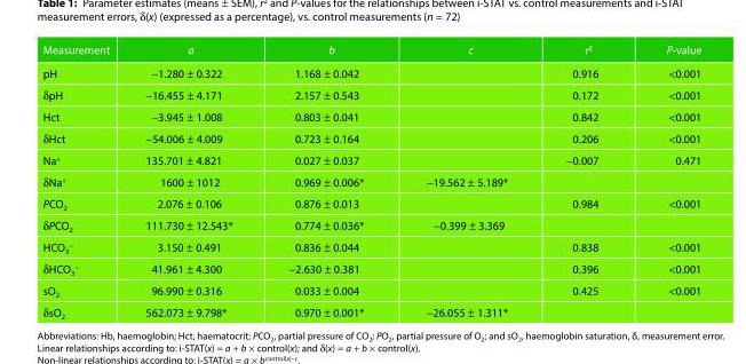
<table><thead><tr><td>Measurement</td><td>a</td><td>b</td><td>c</td><td>r<sup>2</sup></td><td>P-value</td></tr></thead><tbody><tr><td>pH</td><td>−1.280 ± 0.322</td><td>1.168 ± 0.042</td><td></td><td>0.916</td><td>&lt;0.001</td></tr><tr><td>δpH</td><td>−16.455 ± 4.171</td><td>2.157 ± 0.543</td><td></td><td>0.172</td><td>&lt;0.001</td></tr><tr><td>Hct</td><td>−3.945 ± 1.008</td><td>0.803 ± 0.041</td><td></td><td>0.842</td><td>&lt;0.001</td></tr><tr><td>δHct</td><td>−54.006 ± 4.009</td><td>0.723 ± 0.164</td><td></td><td>0.206</td><td>&lt;0.001</td></tr><tr><td>Na<sup>+</sup></td><td>135.701 ± 4.821</td><td>0.027 ± 0.037</td><td></td><td>−0.007</td><td>0.471</td></tr><tr><td>δNa<sup>+</sup></td><td>1600 ± 1012</td><td>0.969 ± 0.006*</td><td>−19.562 ± 5.189*</td><td></td><td></td></tr><tr><td>PCO<sub>2</sub></td><td>2.076 ± 0.106</td><td>0.876 ± 0.013</td><td></td><td>0.984</td><td>&lt;0.001</td></tr><tr><td>δPCO<sub>2</sub></td><td>111.730 ± 12.543*</td><td>0.774 ± 0.036*</td><td>−0.399 ± 3.369</td><td></td><td></td></tr><tr><td>HCO<sub>3</sub><sup>−</sup></td><td>3.150 ± 0.491</td><td>0.836 ± 0.044</td><td></td><td>0.838</td><td>&lt;0.001</td></tr><tr><td>δHCO<sub>3</sub><sup>−</sup></td><td>41.961 ± 4.300</td><td>−2.630 ± 0.381</td><td></td><td>0.396</td><td>&lt;0.001</td></tr><tr><td>sO<sub>2</sub></td><td>96.990 ± 0.316</td><td>0.033 ± 0.004</td><td></td><td>0.425</td><td>&lt;0.001</td></tr><tr><td>δsO<sub>2</sub></td><td>562.073 ± 9.798*</td><td>0.970 ± 0.001*</td><td>−26.055 ± 1.311*</td><td></td><td></td></tr></tbody></table>